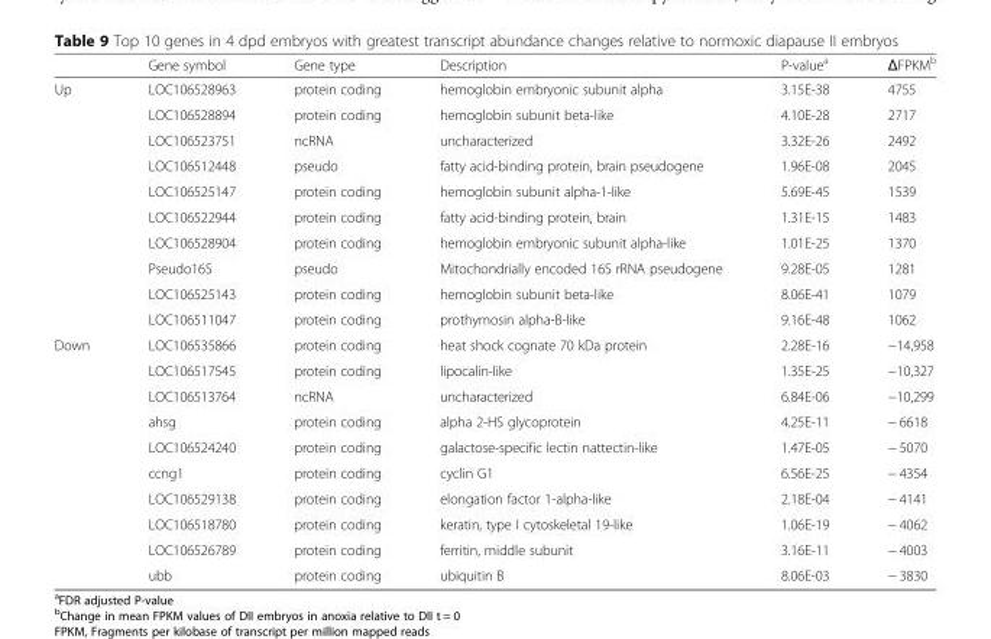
<table><thead><tr><td></td><td>Gene symbol</td><td>Gene type</td><td>Description</td><td>P-value<sup>a</sup></td><td>ΔFPKM<sup>b</sup></td></tr></thead><tbody><tr><td rowspan="10">Up</td><td>LOC106528963</td><td>protein coding</td><td>hemoglobin embryonic subunit alpha</td><td>3.15E-38</td><td>4755</td></tr><tr><td>LOC106528894</td><td>protein coding</td><td>hemoglobin subunit beta-like</td><td>4.10E-28</td><td>2717</td></tr><tr><td>LOC106523751</td><td>ncRNA</td><td>uncharacterized</td><td>3.32E-26</td><td>2492</td></tr><tr><td>LOC106512448</td><td>pseudo</td><td>fatty acid-binding protein, brain pseudogene</td><td>1.96E-08</td><td>2045</td></tr><tr><td>LOC106525147</td><td>protein coding</td><td>hemoglobin subunit alpha-1-like</td><td>5.69E-45</td><td>1539</td></tr><tr><td>LOC106522944</td><td>protein coding</td><td>fatty acid-binding protein, brain</td><td>1.31E-15</td><td>1483</td></tr><tr><td>LOC106528904</td><td>protein coding</td><td>hemoglobin embryonic subunit alpha-like</td><td>1.01E-25</td><td>1370</td></tr><tr><td>Pseudo16S</td><td>pseudo</td><td>Mitochondrially encoded 16S rRNA pseudogene</td><td>9.28E-05</td><td>1281</td></tr><tr><td>LOC106525143</td><td>protein coding</td><td>hemoglobin subunit beta-like</td><td>8.06E-41</td><td>1079</td></tr><tr><td>LOC106511047</td><td>protein coding</td><td>prothymosin alpha-B-like</td><td>9.16E-48</td><td>1062</td></tr><tr><td rowspan="10">Down</td><td>LOC106535866</td><td>protein coding</td><td>heat shock cognate 70 kDa protein</td><td>2.28E-16</td><td>−14,958</td></tr><tr><td>LOC106517545</td><td>protein coding</td><td>lipocalin-like</td><td>1.35E-25</td><td>−10,327</td></tr><tr><td>LOC106513764</td><td>ncRNA</td><td>uncharacterized</td><td>6.84E-06</td><td>−10,299</td></tr><tr><td>ahsg</td><td>protein coding</td><td>alpha 2-HS glycoprotein</td><td>4.25E-11</td><td>− 6618</td></tr><tr><td>LOC106524240</td><td>protein coding</td><td>galactose-specific lectin nattectin-like</td><td>1.47E-05</td><td>− 5070</td></tr><tr><td>ccng1</td><td>protein coding</td><td>cyclin G1</td><td>6.56E-25</td><td>− 4354</td></tr><tr><td>LOC106529138</td><td>protein coding</td><td>elongation factor 1-alpha-like</td><td>2.18E-04</td><td>− 4141</td></tr><tr><td>LOC106518780</td><td>protein coding</td><td>keratin, type I cytoskeletal 19-like</td><td>1.06E-19</td><td>− 4062</td></tr><tr><td>LOC106526789</td><td>protein coding</td><td>ferritin, middle subunit</td><td>3.16E-11</td><td>− 4003</td></tr><tr><td>ubb</td><td>protein coding</td><td>ubiquitin B</td><td>8.06E-03</td><td>− 3830</td></tr></tbody></table>